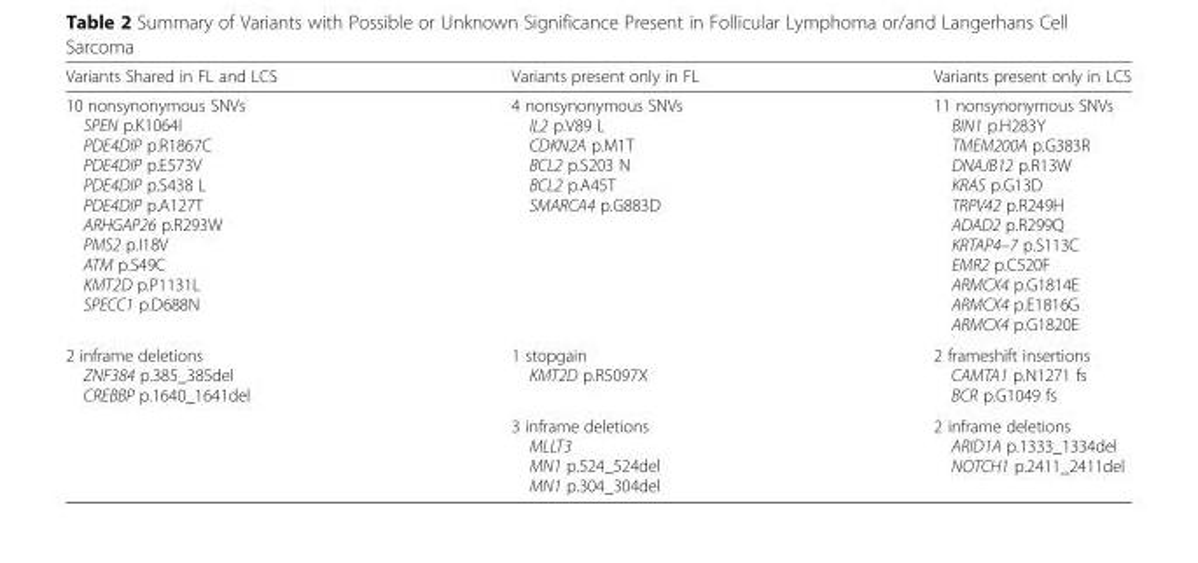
<table><thead><tr><td>Variants Shared in FL and LCS</td><td>Variants present only in FL</td><td>Variants present only in LCS</td></tr></thead><tbody><tr><td>10 nonsynonymous SNVs SPEN p.K1064I PDE4DIP p.R1867C PDE4DIP p.E573V PDE4DIP p.S438 L PDE4DIP p.A127T ARHGAP26 p.R293W PMS2 p.I18V ATM p.S49C KMT2D p.P1131L SPECC1 p.D688N</td><td>4 nonsynonymous SNVs IL2 p.V89 L CDKN2A p.M1T BCL2 p.S203 N BCL2 p.A45T SMARCA4 p.G883D</td><td>11 nonsynonymous SNVs BIN1 p.H283Y TMEM200A p.G383R DNAJB12 p.R13W KRAS p.G13D TRPV42 p.R249H ADAD2 p.R299Q KRTAP4–7 p.S113C EMR2 p.C520F ARMCX4 p.G1814E ARMCX4 p.E1816G ARMCX4 p.G1820E</td></tr><tr><td rowspan="2">2 inframe deletions ZNF384 p.385_385del CREBBP p.1640_1641del</td><td>1 stopgain KMT2D p.R5097X</td><td>2 frameshift insertions CAMTA1 p.N1271 fs BCR p.G1049 fs</td></tr><tr><td>3 inframe deletions MLLT3 MN1 p.524_524del MN1 p.304_304del</td><td>2 inframe deletions ARID1A p.1333_1334del NOTCH1 p.2411_2411del</td></tr></tbody></table>